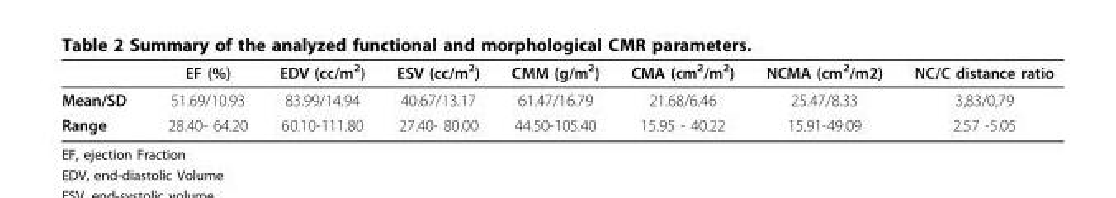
<table><thead><tr><td></td><td>EF (%)</td><td>EDV (cc/m<sup>2</sup>)</td><td>ESV (cc/m<sup>2</sup>)</td><td>CMM (g/m<sup>2</sup>)</td><td>CMA (cm<sup>2</sup>/m<sup>2</sup>)</td><td>NCMA (cm<sup>2</sup>/m2)</td><td>NC/C distance ratio</td></tr></thead><tbody><tr><td>Mean/SD</td><td>51.69/10.93</td><td>83.99/14.94</td><td>40.67/13.17</td><td>61.47/16.79</td><td>21.68/6.46</td><td>25.47/8.33</td><td>3,83/0,79</td></tr><tr><td>Range</td><td>28.40- 64.20</td><td>60.10-111.80</td><td>27.40- 80.00</td><td>44.50-105.40</td><td>15.95 - 40.22</td><td>15.91-49.09</td><td>2.57 -5.05</td></tr></tbody></table>